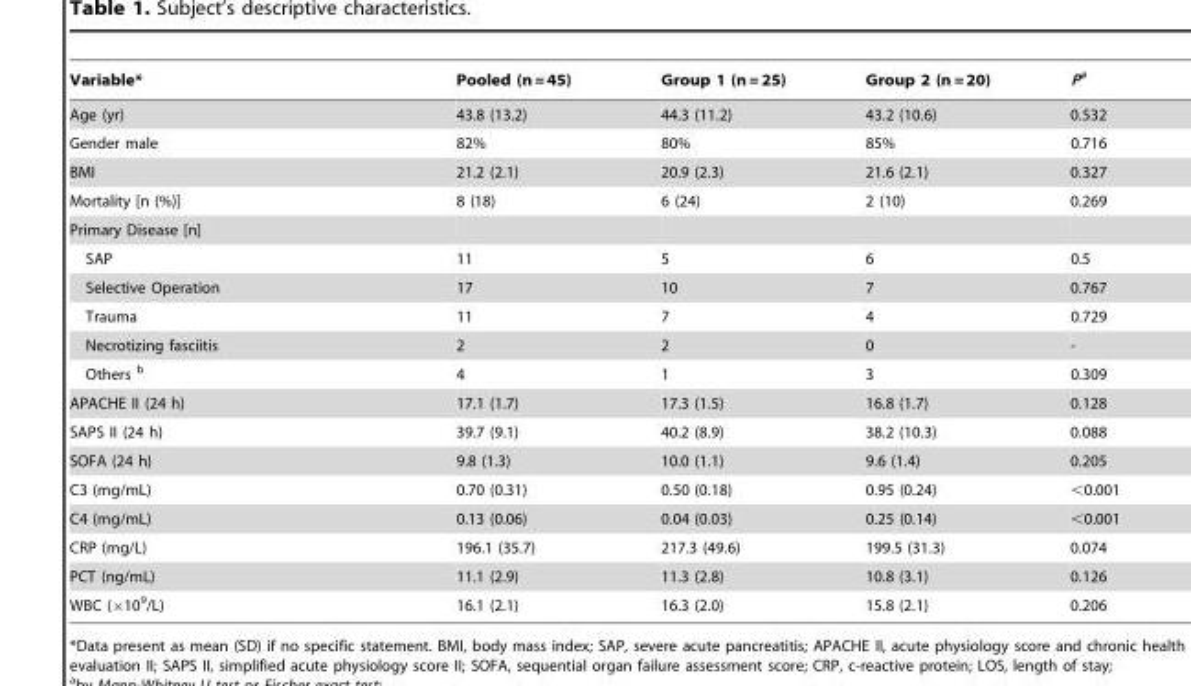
<table><thead><tr><td>Variable*</td><td>Pooled (n = 45)</td><td>Group 1 (n = 25)</td><td>Group 2 (n = 20)</td><td>Pa</td></tr></thead><tbody><tr><td>Age (yr)</td><td>43.8 (13.2)</td><td>44.3 (11.2)</td><td>43.2 (10.6)</td><td>0.532</td></tr><tr><td>Gender male</td><td>82%</td><td>80%</td><td>85%</td><td>0.716</td></tr><tr><td>BMI</td><td>21.2 (2.1)</td><td>20.9 (2.3)</td><td>21.6 (2.1)</td><td>0.327</td></tr><tr><td>Mortality [n (%)]</td><td>8 (18)</td><td>6 (24)</td><td>2 (10)</td><td>0.269</td></tr><tr><td colspan="5">Primary Disease [n]</td></tr><tr><td>SAP</td><td>11</td><td>5</td><td>6</td><td>0.5</td></tr><tr><td>Selective Operation</td><td>17</td><td>10</td><td>7</td><td>0.767</td></tr><tr><td>Trauma</td><td>11</td><td>7</td><td>4</td><td>0.729</td></tr><tr><td>Necrotizing fasciitis</td><td>2</td><td>2</td><td>0</td><td>-</td></tr><tr><td>Others b</td><td>4</td><td>1</td><td>3</td><td>0.309</td></tr><tr><td>APACHE II (24 h)</td><td>17.1 (1.7)</td><td>17.3 (1.5)</td><td>16.8 (1.7)</td><td>0.128</td></tr><tr><td>SAPS II (24 h)</td><td>39.7 (9.1)</td><td>40.2 (8.9)</td><td>38.2 (10.3)</td><td>0.088</td></tr><tr><td>SOFA (24 h)</td><td>9.8 (1.3)</td><td>10.0 (1.1)</td><td>9.6 (1.4)</td><td>0.205</td></tr><tr><td>C3 (mg/mL)</td><td>0.70 (0.31)</td><td>0.50 (0.18)</td><td>0.95 (0.24)</td><td>&lt;0.001</td></tr><tr><td>C4 (mg/mL)</td><td>0.13 (0.06)</td><td>0.04 (0.03)</td><td>0.25 (0.14)</td><td>&lt;0.001</td></tr><tr><td>CRP (mg/L)</td><td>196.1 (35.7)</td><td>217.3 (49.6)</td><td>199.5 (31.3)</td><td>0.074</td></tr><tr><td>PCT (ng/mL)</td><td>11.1 (2.9)</td><td>11.3 (2.8)</td><td>10.8 (3.1)</td><td>0.126</td></tr><tr><td>WBC (×10<sup>9</sup>/L)</td><td>16.1 (2.1)</td><td>16.3 (2.0)</td><td>15.8 (2.1)</td><td>0.206</td></tr></tbody></table>